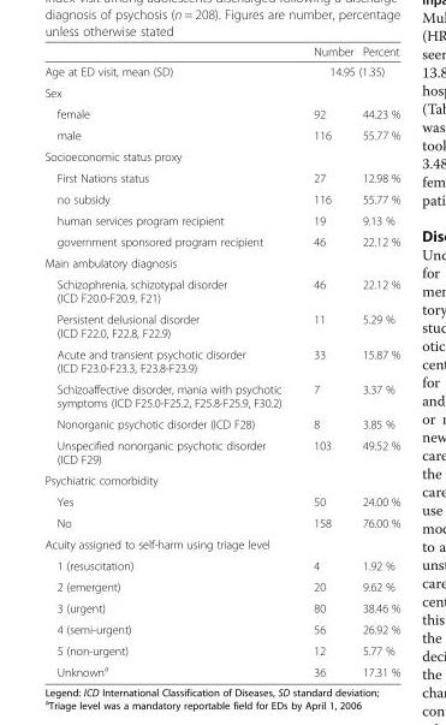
<table><thead><tr><td></td><td>Number</td><td>Percent</td></tr></thead><tbody><tr><td>Age at ED visit, mean (SD)</td><td colspan="2">14.95 (1.35)</td></tr><tr><td colspan="3">Sex</td></tr><tr><td>female</td><td>92</td><td>44.23 %</td></tr><tr><td>male</td><td>116</td><td>55.77 %</td></tr><tr><td colspan="3">Socioeconomic status proxy</td></tr><tr><td>First Nations status</td><td>27</td><td>12.98 %</td></tr><tr><td>no subsidy</td><td>116</td><td>55.77 %</td></tr><tr><td>human services program recipient</td><td>19</td><td>9.13 %</td></tr><tr><td>government sponsored program recipient</td><td>46</td><td>22.12 %</td></tr><tr><td colspan="3">Main ambulatory diagnosis</td></tr><tr><td>Schizophrenia, schizotypal disorder (ICD F20.0-F20.9, F21)</td><td>46</td><td>22.12 %</td></tr><tr><td>Persistent delusional disorder (ICD F22.0, F22.8, F22.9)</td><td>11</td><td>5.29 %</td></tr><tr><td>Acute and transient psychotic disorder (ICD F23.0-F23.3, F23.8-F23.9)</td><td>33</td><td>15.87 %</td></tr><tr><td>Schizoaffective disorder, mania with psychotic symptoms (ICD F25.0-F25.2, F25.8-F25.9, F30.2)</td><td>7</td><td>3.37 %</td></tr><tr><td>Nonorganic psychotic disorder (ICD F28)</td><td>8</td><td>3.85 %</td></tr><tr><td>Unspecified nonorganic psychotic disorder (ICD F29)</td><td>103</td><td>49.52 %</td></tr><tr><td colspan="3">Psychiatric comorbidity</td></tr><tr><td>Yes</td><td>50</td><td>24.00 %</td></tr><tr><td>No</td><td>158</td><td>76.00 %</td></tr><tr><td colspan="3">Acuity assigned to self-harm using triage level</td></tr><tr><td>1 (resuscitation)</td><td>4</td><td>1.92 %</td></tr><tr><td>2 (emergent)</td><td>20</td><td>9.62 %</td></tr><tr><td>3 (urgent)</td><td>80</td><td>38.46 %</td></tr><tr><td>4 (semi-urgent)</td><td>56</td><td>26.92 %</td></tr><tr><td>5 (non-urgent)</td><td>12</td><td>5.77 %</td></tr><tr><td>Unknown<sup>a</sup></td><td>36</td><td>17.31 %</td></tr></tbody></table>